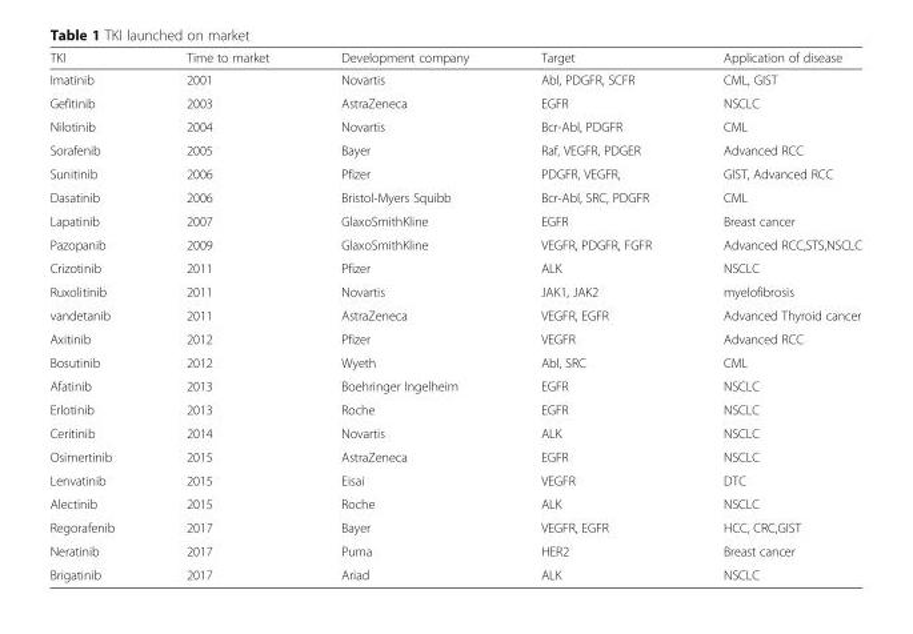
<table><thead><tr><td>TKI</td><td>Time to market</td><td>Development company</td><td>Target</td><td>Application of disease</td></tr></thead><tbody><tr><td>Imatinib</td><td>2001</td><td>Novartis</td><td>Abl, PDGFR, SCFR</td><td>CML, GIST</td></tr><tr><td>Gefitinib</td><td>2003</td><td>AstraZeneca</td><td>EGFR</td><td>NSCLC</td></tr><tr><td>Nilotinib</td><td>2004</td><td>Novartis</td><td>Bcr-Abl, PDGFR</td><td>CML</td></tr><tr><td>Sorafenib</td><td>2005</td><td>Bayer</td><td>Raf, VEGFR, PDGER</td><td>Advanced RCC</td></tr><tr><td>Sunitinib</td><td>2006</td><td>Pfizer</td><td>PDGFR, VEGFR,</td><td>GIST, Advanced RCC</td></tr><tr><td>Dasatinib</td><td>2006</td><td>Bristol-Myers Squibb</td><td>Bcr-Abl, SRC, PDGFR</td><td>CML</td></tr><tr><td>Lapatinib</td><td>2007</td><td>GlaxoSmithKline</td><td>EGFR</td><td>Breast cancer</td></tr><tr><td>Pazopanib</td><td>2009</td><td>GlaxoSmithKline</td><td>VEGFR, PDGFR, FGFR</td><td>Advanced RCC,STS,NSCLC</td></tr><tr><td>Crizotinib</td><td>2011</td><td>Pfizer</td><td>ALK</td><td>NSCLC</td></tr><tr><td>Ruxolitinib</td><td>2011</td><td>Novartis</td><td>JAK1, JAK2</td><td>myelofibrosis</td></tr><tr><td>vandetanib</td><td>2011</td><td>AstraZeneca</td><td>VEGFR, EGFR</td><td>Advanced Thyroid cancer</td></tr><tr><td>Axitinib</td><td>2012</td><td>Pfizer</td><td>VEGFR</td><td>Advanced RCC</td></tr><tr><td>Bosutinib</td><td>2012</td><td>Wyeth</td><td>Abl, SRC</td><td>CML</td></tr><tr><td>Afatinib</td><td>2013</td><td>Boehringer Ingelheim</td><td>EGFR</td><td>NSCLC</td></tr><tr><td>Erlotinib</td><td>2013</td><td>Roche</td><td>EGFR</td><td>NSCLC</td></tr><tr><td>Ceritinib</td><td>2014</td><td>Novartis</td><td>ALK</td><td>NSCLC</td></tr><tr><td>Osimertinib</td><td>2015</td><td>AstraZeneca</td><td>EGFR</td><td>NSCLC</td></tr><tr><td>Lenvatinib</td><td>2015</td><td>Eisai</td><td>VEGFR</td><td>DTC</td></tr><tr><td>Alectinib</td><td>2015</td><td>Roche</td><td>ALK</td><td>NSCLC</td></tr><tr><td>Regorafenib</td><td>2017</td><td>Bayer</td><td>VEGFR, EGFR</td><td>HCC, CRC,GIST</td></tr><tr><td>Neratinib</td><td>2017</td><td>Puma</td><td>HER2</td><td>Breast cancer</td></tr><tr><td>Brigatinib</td><td>2017</td><td>Ariad</td><td>ALK</td><td>NSCLC</td></tr></tbody></table>